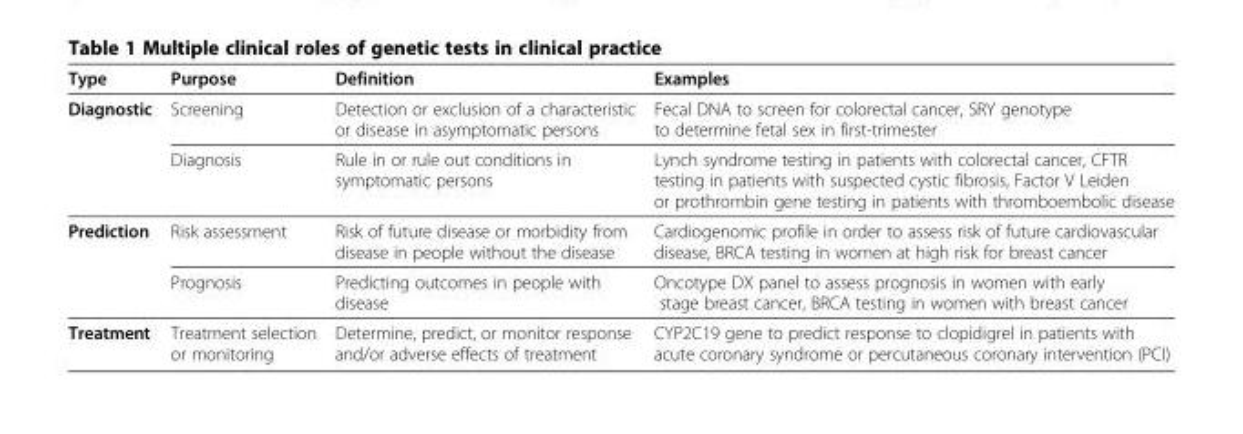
<table><thead><tr><td>Type</td><td>Purpose</td><td>Definition</td><td>Examples</td></tr></thead><tbody><tr><td rowspan="2">Diagnostic</td><td>Screening</td><td>Detection or exclusion of a characteristic or disease in asymptomatic persons</td><td>Fecal DNA to screen for colorectal cancer, SRY genotype to determine fetal sex in first-trimester</td></tr><tr><td>Diagnosis</td><td>Rule in or rule out conditions in symptomatic persons</td><td>Lynch syndrome testing in patients with colorectal cancer, CFTR testing in patients with suspected cystic fibrosis, Factor V Leiden or prothrombin gene testing in patients with thromboembolic disease</td></tr><tr><td rowspan="2">Prediction</td><td>Risk assessment</td><td>Risk of future disease or morbidity from disease in people without the disease</td><td>Cardiogenomic profile in order to assess risk of future cardiovascular disease, BRCA testing in women at high risk for breast cancer</td></tr><tr><td>Prognosis</td><td>Predicting outcomes in people with disease</td><td>Oncotype DX panel to assess prognosis in women with early stage breast cancer, BRCA testing in women with breast cancer</td></tr><tr><td>Treatment</td><td>Treatment selection or monitoring</td><td>Determine, predict, or monitor response and/or adverse effects of treatment</td><td>CYP2C19 gene to predict response to clopidigrel in patients with acute coronary syndrome or percutaneous coronary intervention (PCI)</td></tr></tbody></table>